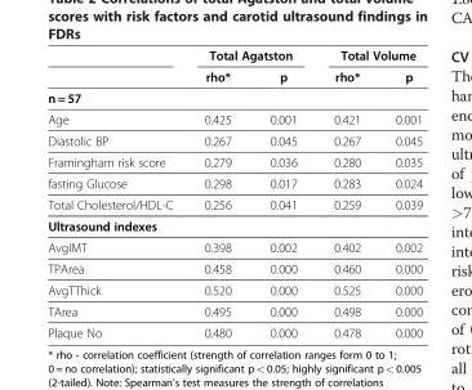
<table><thead><tr><td rowspan="2"></td><td colspan="2">Total Agatston</td><td colspan="2">Total Volume</td></tr><tr><td>rho*</td><td>p</td><td>rho*</td><td>p</td></tr></thead><tbody><tr><td colspan="5">n = 57</td></tr><tr><td>Age</td><td>0.425</td><td>0.001</td><td>0.421</td><td>0.001</td></tr><tr><td>Diastolic BP</td><td>0.267</td><td>0.045</td><td>0.267</td><td>0.045</td></tr><tr><td>Framingham risk score</td><td>0.279</td><td>0.036</td><td>0.280</td><td>0.035</td></tr><tr><td>fasting Glucose</td><td>0.298</td><td>0.017</td><td>0.283</td><td>0.024</td></tr><tr><td>Total Cholesterol/HDL-C</td><td>0.256</td><td>0.041</td><td>0.259</td><td>0.039</td></tr><tr><td colspan="5">Ultrasound indexes</td></tr><tr><td>AvgIMT</td><td>0.398</td><td>0.002</td><td>0.402</td><td>0.002</td></tr><tr><td>TPArea</td><td>0.458</td><td>0.000</td><td>0.460</td><td>0.000</td></tr><tr><td>AvgTThick</td><td>0.520</td><td>0.000</td><td>0.525</td><td>0.000</td></tr><tr><td>TArea</td><td>0.495</td><td>0.000</td><td>0.498</td><td>0.000</td></tr><tr><td>Plaque No</td><td>0.480</td><td>0.000</td><td>0.478</td><td>0.000</td></tr></tbody></table>